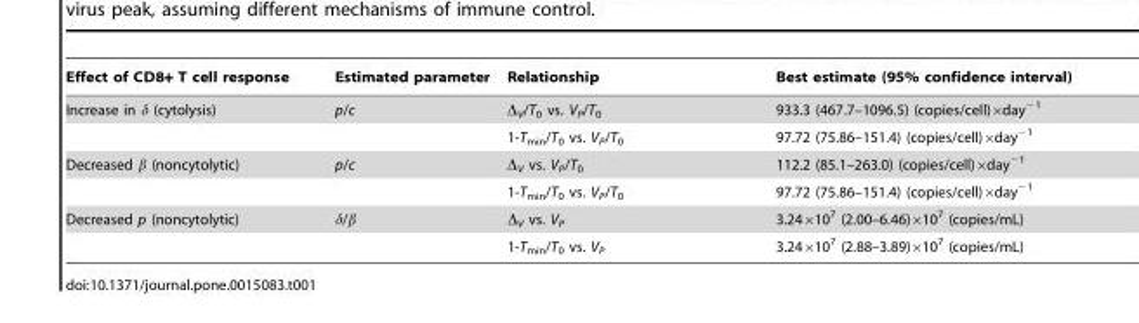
<table><thead><tr><td>Effect of CD8+ T cell response</td><td>Estimated parameter</td><td>Relationship</td><td>Best estimate (95% confidence interval)</td></tr></thead><tbody><tr><td rowspan="2">Increase in δ (cytolysis)</td><td>p/c</td><td>Δ<sub>V</sub>/T<sub>0</sub> vs. V<sub>P</sub>/T<sub>0</sub></td><td>933.3 (467.7–1096.5) (copies/cell)×day<sup>−1</sup></td></tr><tr><td></td><td>1-T<sub>min</sub>/T<sub>0</sub> vs. V<sub>P</sub>/T<sub>0</sub></td><td>97.72 (75.86–151.4) (copies/cell)×day<sup>−1</sup></td></tr><tr><td rowspan="2">Decreased β (noncytolytic)</td><td>p/c</td><td>Δ<sub>V</sub> vs. V<sub>P</sub>/T<sub>0</sub></td><td>112.2 (85.1–263.0) (copies/cell)×day<sup>−1</sup></td></tr><tr><td></td><td>1-T<sub>min</sub>/T<sub>0</sub> vs. V<sub>P</sub>/T<sub>0</sub></td><td>97.72 (75.86–151.4) (copies/cell)×day<sup>−1</sup></td></tr><tr><td rowspan="2">Decreased p (noncytolytic)</td><td>δ/β</td><td>Δ<sub>V</sub> vs. V<sub>P</sub></td><td>3.24×10<sup>7</sup> (2.00–6.46)×10<sup>7</sup> (copies/mL)</td></tr><tr><td></td><td>1-T<sub>min</sub>/T<sub>0</sub> vs. V<sub>P</sub></td><td>3.24×10<sup>7</sup> (2.88–3.89)×10<sup>7</sup> (copies/mL)</td></tr></tbody></table>